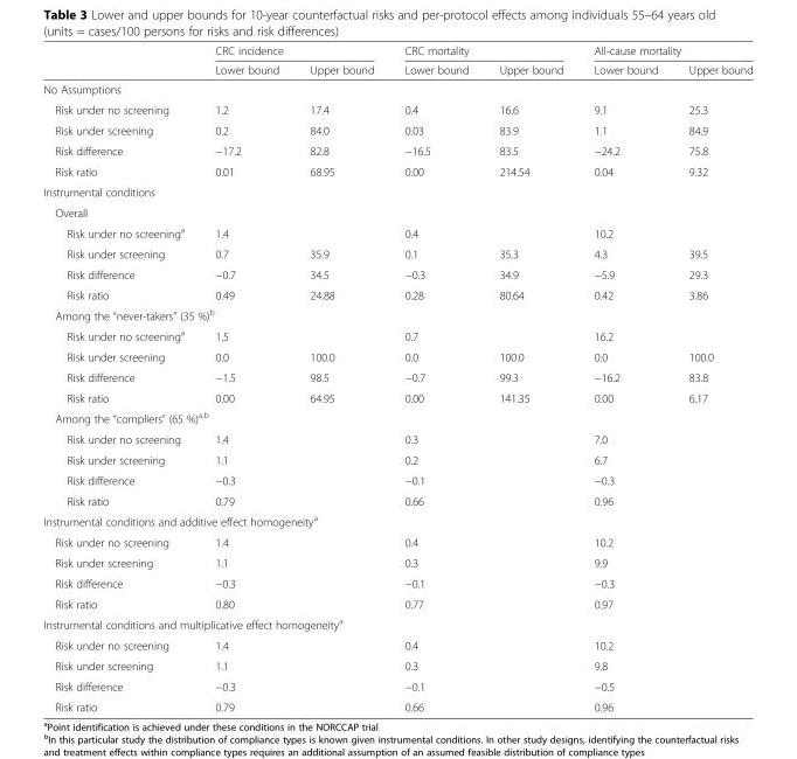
<table><thead><tr><td rowspan="2"></td><td colspan="2">CRC incidence</td><td colspan="2">CRC mortality</td><td colspan="2">All-cause mortality</td></tr><tr><td>Lower bound</td><td>Upper bound</td><td>Lower bound</td><td>Upper bound</td><td>Lower bound</td><td>Upper bound</td></tr></thead><tbody><tr><td colspan="7">No Assumptions</td></tr><tr><td>Risk under no screening</td><td>1.2</td><td>17.4</td><td>0.4</td><td>16.6</td><td>9.1</td><td>25.3</td></tr><tr><td>Risk under screening</td><td>0.2</td><td>84.0</td><td>0.03</td><td>83.9</td><td>1.1</td><td>84.9</td></tr><tr><td>Risk difference</td><td>−17.2</td><td>82.8</td><td>−16.5</td><td>83.5</td><td>−24.2</td><td>75.8</td></tr><tr><td>Risk ratio</td><td>0.01</td><td>68.95</td><td>0.00</td><td>214.54</td><td>0.04</td><td>9.32</td></tr><tr><td colspan="7">Instrumental conditions</td></tr><tr><td colspan="7">Overall</td></tr><tr><td>Risk under no screening<sup>a</sup></td><td colspan="2">1.4</td><td colspan="2">0.4</td><td colspan="2">10.2</td></tr><tr><td>Risk under screening</td><td>0.7</td><td>35.9</td><td>0.1</td><td>35.3</td><td>4.3</td><td>39.5</td></tr><tr><td>Risk difference</td><td>−0.7</td><td>34.5</td><td>−0.3</td><td>34.9</td><td>−5.9</td><td>29.3</td></tr><tr><td>Risk ratio</td><td>0.49</td><td>24.88</td><td>0.28</td><td>80.64</td><td>0.42</td><td>3.86</td></tr><tr><td colspan="7">Among the “never-takers” (35 %)<sup>b</sup></td></tr><tr><td>Risk under no screening<sup>a</sup></td><td colspan="2">1.5</td><td colspan="2">0.7</td><td colspan="2">16.2</td></tr><tr><td>Risk under screening</td><td>0.0</td><td>100.0</td><td>0.0</td><td>100.0</td><td>0.0</td><td>100.0</td></tr><tr><td>Risk difference</td><td>−1.5</td><td>98.5</td><td>−0.7</td><td>99.3</td><td>−16.2</td><td>83.8</td></tr><tr><td>Risk ratio</td><td>0.00</td><td>64.95</td><td>0.00</td><td>141.35</td><td>0.00</td><td>6.17</td></tr><tr><td colspan="7">Among the “compliers” (65 %)<sup>a,b</sup></td></tr><tr><td>Risk under no screening</td><td colspan="2">1.4</td><td colspan="2">0.3</td><td colspan="2">7.0</td></tr><tr><td>Risk under screening</td><td colspan="2">1.1</td><td colspan="2">0.2</td><td colspan="2">6.7</td></tr><tr><td>Risk difference</td><td colspan="2">−0.3</td><td colspan="2">−0.1</td><td colspan="2">−0.3</td></tr><tr><td>Risk ratio</td><td colspan="2">0.79</td><td colspan="2">0.66</td><td colspan="2">0.96</td></tr><tr><td colspan="7">Instrumental conditions and additive effect homogeneity<sup>a</sup></td></tr><tr><td>Risk under no screening</td><td colspan="2">1.4</td><td colspan="2">0.4</td><td colspan="2">10.2</td></tr><tr><td>Risk under screening</td><td colspan="2">1.1</td><td colspan="2">0.3</td><td colspan="2">9.9</td></tr><tr><td>Risk difference</td><td colspan="2">−0.3</td><td colspan="2">−0.1</td><td colspan="2">−0.3</td></tr><tr><td>Risk ratio</td><td colspan="2">0.80</td><td colspan="2">0.77</td><td colspan="2">0.97</td></tr><tr><td colspan="7">Instrumental conditions and multiplicative effect homogeneity<sup>a</sup></td></tr><tr><td>Risk under no screening</td><td colspan="2">1.4</td><td colspan="2">0.4</td><td colspan="2">10.2</td></tr><tr><td>Risk under screening</td><td colspan="2">1.1</td><td colspan="2">0.3</td><td colspan="2">9.8</td></tr><tr><td>Risk difference</td><td colspan="2">−0.3</td><td colspan="2">−0.1</td><td colspan="2">−0.5</td></tr><tr><td>Risk ratio</td><td colspan="2">0.79</td><td colspan="2">0.66</td><td colspan="2">0.96</td></tr></tbody></table>